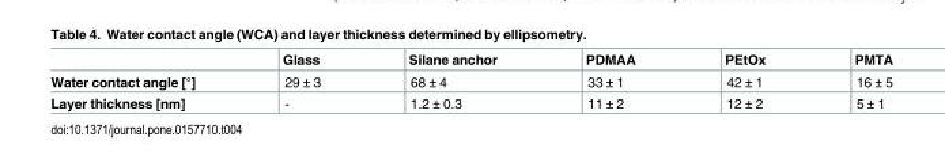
<table><thead><tr><td></td><td>Glass</td><td>Silane anchor</td><td>PDMAA</td><td>PEtOx</td><td>PMTA</td></tr></thead><tbody><tr><td>Water contact angle [°]</td><td>29 ± 3</td><td>68 ± 4</td><td>33 ± 1</td><td>42 ± 1</td><td>16 ± 5</td></tr><tr><td>Layer thickness [nm]</td><td>-</td><td>1.2 ± 0.3</td><td>11 ± 2</td><td>12 ± 2</td><td>5 ± 1</td></tr></tbody></table>